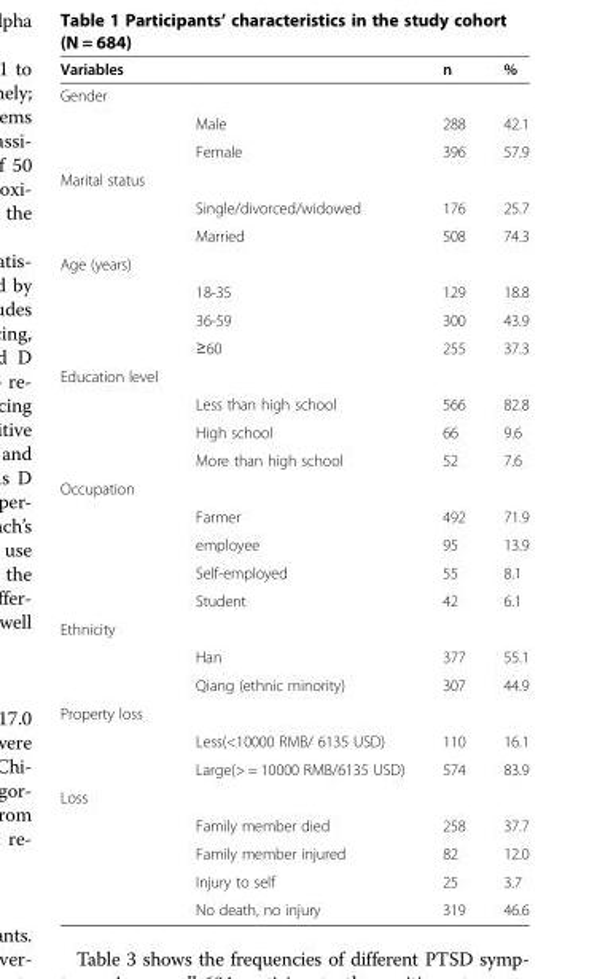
<table><thead><tr><td>Variables</td><td></td><td>n</td><td>%</td></tr></thead><tbody><tr><td colspan="4">Gender</td></tr><tr><td></td><td>Male</td><td>288</td><td>42.1</td></tr><tr><td></td><td>Female</td><td>396</td><td>57.9</td></tr><tr><td colspan="4">Marital status</td></tr><tr><td></td><td>Single/divorced/widowed</td><td>176</td><td>25.7</td></tr><tr><td></td><td>Married</td><td>508</td><td>74.3</td></tr><tr><td colspan="4">Age (years)</td></tr><tr><td></td><td>18-35</td><td>129</td><td>18.8</td></tr><tr><td></td><td>36-59</td><td>300</td><td>43.9</td></tr><tr><td></td><td>≥60</td><td>255</td><td>37.3</td></tr><tr><td colspan="4">Education level</td></tr><tr><td></td><td>Less than high school</td><td>566</td><td>82.8</td></tr><tr><td></td><td>High school</td><td>66</td><td>9.6</td></tr><tr><td></td><td>More than high school</td><td>52</td><td>7.6</td></tr><tr><td colspan="4">Occupation</td></tr><tr><td></td><td>Farmer</td><td>492</td><td>71.9</td></tr><tr><td></td><td>employee</td><td>95</td><td>13.9</td></tr><tr><td></td><td>Self-employed</td><td>55</td><td>8.1</td></tr><tr><td></td><td>Student</td><td>42</td><td>6.1</td></tr><tr><td colspan="4">Ethnicity</td></tr><tr><td></td><td>Han</td><td>377</td><td>55.1</td></tr><tr><td></td><td>Qiang (ethnic minority)</td><td>307</td><td>44.9</td></tr><tr><td colspan="4">Property loss</td></tr><tr><td></td><td>Less(&lt;10000 RMB/ 6135 USD)</td><td>110</td><td>16.1</td></tr><tr><td></td><td>Large(&gt; = 10000 RMB/6135 USD)</td><td>574</td><td>83.9</td></tr><tr><td colspan="4">Loss</td></tr><tr><td></td><td>Family member died</td><td>258</td><td>37.7</td></tr><tr><td></td><td>Family member injured</td><td>82</td><td>12.0</td></tr><tr><td></td><td>Injury to self</td><td>25</td><td>3.7</td></tr><tr><td></td><td>No death, no injury</td><td>319</td><td>46.6</td></tr></tbody></table>